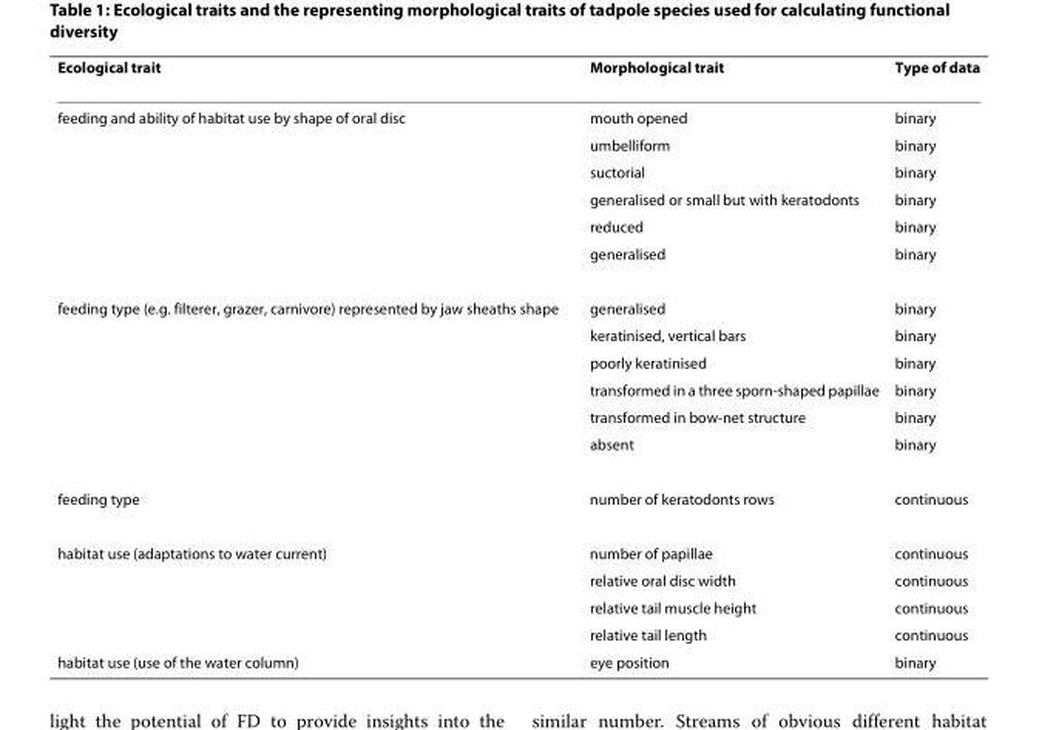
<table><thead><tr><td>Ecological trait</td><td>Morphological trait</td><td>Type of data</td></tr></thead><tbody><tr><td rowspan="6">feeding and ability of habitat use by shape of oral disc</td><td>mouth opened</td><td>binary</td></tr><tr><td>umbelliform</td><td>binary</td></tr><tr><td>suctorial</td><td>binary</td></tr><tr><td>generalised or small but with keratodonts</td><td>binary</td></tr><tr><td>reduced</td><td>binary</td></tr><tr><td>generalised</td><td>binary</td></tr><tr><td rowspan="6">feeding type (e.g. filterer, grazer, carnivore) represented by jaw sheaths shape</td><td>generalised</td><td>binary</td></tr><tr><td>keratinised, vertical bars</td><td>binary</td></tr><tr><td>poorly keratinised</td><td>binary</td></tr><tr><td>transformed in a three sporn-shaped papillae</td><td>binary</td></tr><tr><td>transformed in bow-net structure</td><td>binary</td></tr><tr><td>absent</td><td>binary</td></tr><tr><td>feeding type</td><td>number of keratodonts rows</td><td>continuous</td></tr><tr><td rowspan="4">habitat use (adaptations to water current)</td><td>number of papillae</td><td>continuous</td></tr><tr><td>relative oral disc width</td><td>continuous</td></tr><tr><td>relative tail muscle height</td><td>continuous</td></tr><tr><td>relative tail length</td><td>continuous</td></tr><tr><td>habitat use (use of the water column)</td><td>eye position</td><td>binary</td></tr></tbody></table>